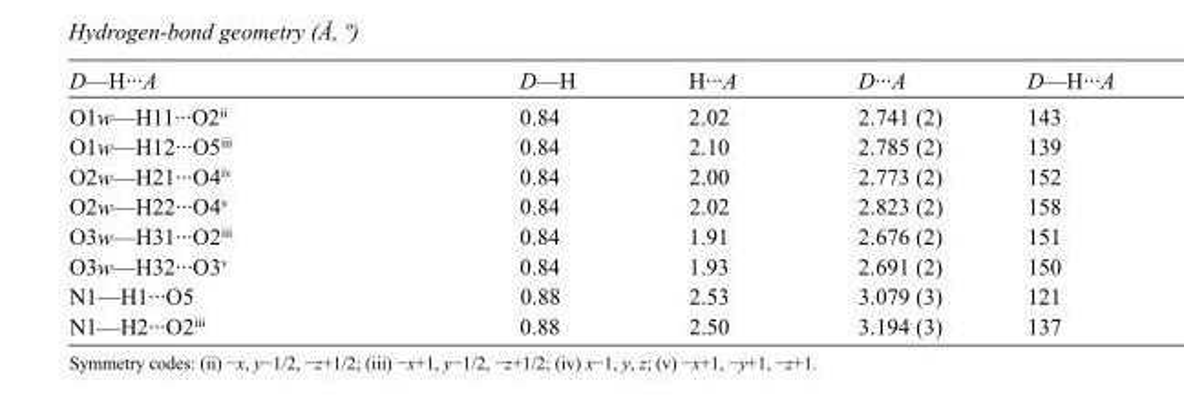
<table><tbody><tr><td>D—H···A</td><td>D—H</td><td>H···A</td><td>D···A</td><td>D—H···A</td></tr><tr><td>O1w—H11···O2<sup>ii</sup></td><td>0.84</td><td>2.02</td><td>2.741 (2)</td><td>143</td></tr><tr><td>O1w—H12···O5<sup>iii</sup></td><td>0.84</td><td>2.10</td><td>2.785 (2)</td><td>139</td></tr><tr><td>O2w—H21···O4<sup>iv</sup></td><td>0.84</td><td>2.00</td><td>2.773 (2)</td><td>152</td></tr><tr><td>O2w—H22···O4<sup>v</sup></td><td>0.84</td><td>2.02</td><td>2.823 (2)</td><td>158</td></tr><tr><td>O3w—H31···O2<sup>iii</sup></td><td>0.84</td><td>1.91</td><td>2.676 (2)</td><td>151</td></tr><tr><td>O3w—H32···O3<sup>v</sup></td><td>0.84</td><td>1.93</td><td>2.691 (2)</td><td>150</td></tr><tr><td>N1—H1···O5</td><td>0.88</td><td>2.53</td><td>3.079 (3)</td><td>121</td></tr><tr><td>N1—H2···O2<sup>iii</sup></td><td>0.88</td><td>2.50</td><td>3.194 (3)</td><td>137</td></tr></tbody></table>